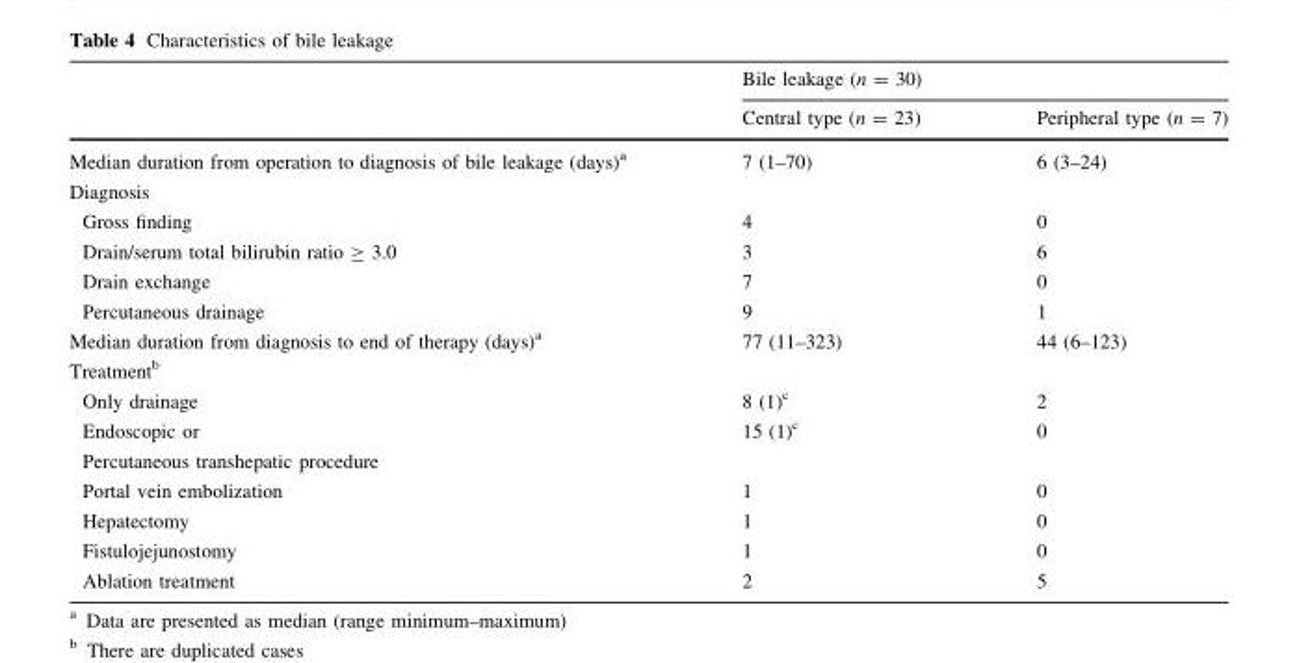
<table><thead><tr><td rowspan="2"></td><td colspan="2">Bile leakage (n = 30)</td></tr><tr><td>Central type (n = 23)</td><td>Peripheral type (n = 7)</td></tr></thead><tbody><tr><td>Median duration from operation to diagnosis of bile leakage (days)<sup>a</sup></td><td>7 (1–70)</td><td>6 (3–24)</td></tr><tr><td colspan="3">Diagnosis</td></tr><tr><td>Gross finding</td><td>4</td><td>0</td></tr><tr><td>Drain/serum total bilirubin ratio ≥ 3.0</td><td>3</td><td>6</td></tr><tr><td>Drain exchange</td><td>7</td><td>0</td></tr><tr><td>Percutaneous drainage</td><td>9</td><td>1</td></tr><tr><td>Median duration from diagnosis to end of therapy (days)<sup>a</sup></td><td>77 (11–323)</td><td>44 (6–123)</td></tr><tr><td colspan="3">Treatment<sup>b</sup></td></tr><tr><td>Only drainage</td><td>8 (1)<sup>c</sup></td><td>2</td></tr><tr><td>Endoscopic or</td><td>15 (1)<sup>c</sup></td><td>0</td></tr><tr><td colspan="3">Percutaneous transhepatic procedure</td></tr><tr><td>Portal vein embolization</td><td>1</td><td>0</td></tr><tr><td>Hepatectomy</td><td>1</td><td>0</td></tr><tr><td>Fistulojejunostomy</td><td>1</td><td>0</td></tr><tr><td>Ablation treatment</td><td>2</td><td>5</td></tr></tbody></table>